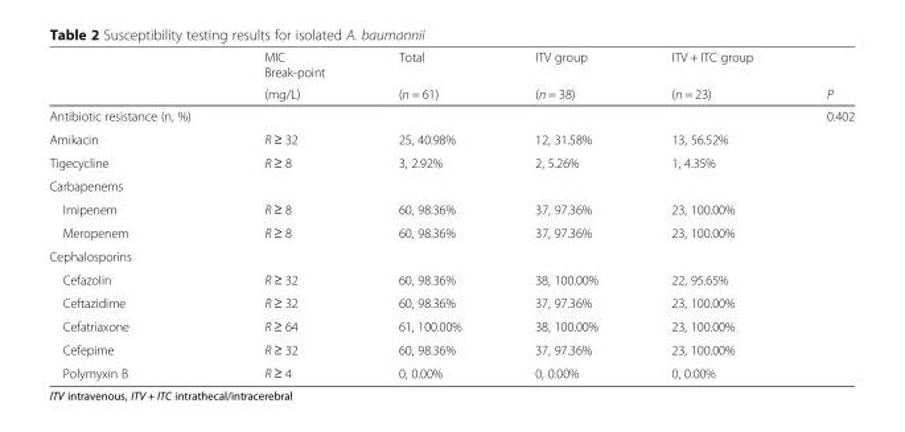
<table><thead><tr><td rowspan="2"></td><td rowspan="2">MIC Break-point (mg/L)</td><td rowspan="2">Total (n = 61)</td><td rowspan="2">ITV group (n = 38)</td><td rowspan="2">ITV + ITC group (n = 23)</td><td rowspan="2">P</td></tr><tr></tr></thead><tbody><tr><td>Antibiotic resistance (n, %)</td><td></td><td></td><td></td><td></td><td>0.402</td></tr><tr><td>Amikacin</td><td>R ≥ 32</td><td>25, 40.98%</td><td>12, 31.58%</td><td>13, 56.52%</td><td></td></tr><tr><td>Tigecycline</td><td>R ≥ 8</td><td>3, 2.92%</td><td>2, 5.26%</td><td>1, 4.35%</td><td></td></tr><tr><td colspan="6">Carbapenems</td></tr><tr><td>Imipenem</td><td>R ≥ 8</td><td>60, 98.36%</td><td>37, 97.36%</td><td>23, 100.00%</td><td></td></tr><tr><td>Meropenem</td><td>R ≥ 8</td><td>60, 98.36%</td><td>37, 97.36%</td><td>23, 100.00%</td><td></td></tr><tr><td colspan="6">Cephalosporins</td></tr><tr><td>Cefazolin</td><td>R ≥ 32</td><td>60, 98.36%</td><td>38, 100.00%</td><td>22, 95.65%</td><td></td></tr><tr><td>Ceftazidime</td><td>R ≥ 32</td><td>60, 98.36%</td><td>37, 97.36%</td><td>23, 100.00%</td><td></td></tr><tr><td>Cefatriaxone</td><td>R ≥ 64</td><td>61, 100.00%</td><td>38, 100.00%</td><td>23, 100.00%</td><td></td></tr><tr><td>Cefepime</td><td>R ≥ 32</td><td>60, 98.36%</td><td>37, 97.36%</td><td>23, 100.00%</td><td></td></tr><tr><td>Polymyxin B</td><td>R ≥ 4</td><td>0, 0.00%</td><td>0, 0.00%</td><td>0, 0.00%</td><td></td></tr></tbody></table>